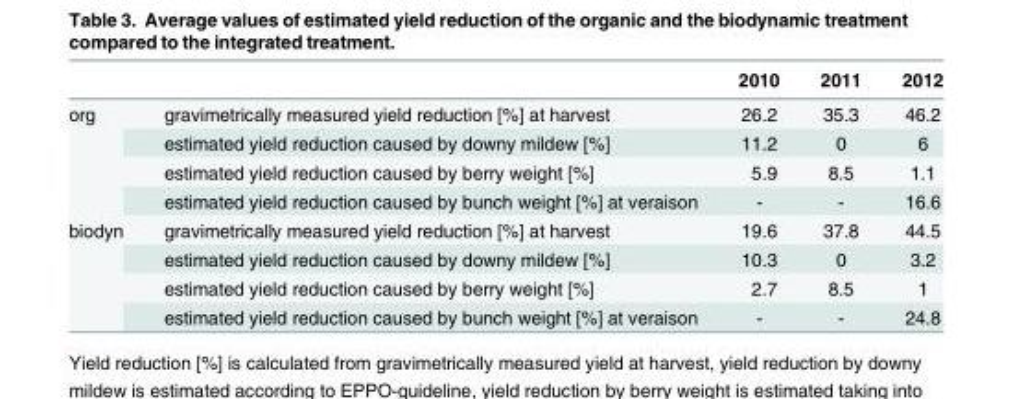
<table><thead><tr><td></td><td></td><td>2010</td><td>2011</td><td>2012</td></tr></thead><tbody><tr><td rowspan="4">org</td><td>gravimetrically measured yield reduction [%] at harvest</td><td>26.2</td><td>35.3</td><td>46.2</td></tr><tr><td>estimated yield reduction caused by downy mildew [%]</td><td>11.2</td><td>0</td><td>6</td></tr><tr><td>estimated yield reduction caused by berry weight [%]</td><td>5.9</td><td>8.5</td><td>1.1</td></tr><tr><td>estimated yield reduction caused by bunch weight [%] at veraison</td><td>-</td><td>-</td><td>16.6</td></tr><tr><td rowspan="4">biodyn</td><td>gravimetrically measured yield reduction [%] at harvest</td><td>19.6</td><td>37.8</td><td>44.5</td></tr><tr><td>estimated yield reduction caused by downy mildew [%]</td><td>10.3</td><td>0</td><td>3.2</td></tr><tr><td>estimated yield reduction caused by berry weight [%]</td><td>2.7</td><td>8.5</td><td>1</td></tr><tr><td>estimated yield reduction caused by bunch weight [%] at veraison</td><td>-</td><td>-</td><td>24.8</td></tr></tbody></table>